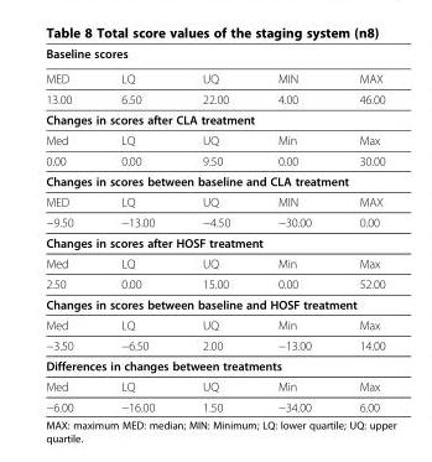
<table><thead><tr><td colspan="5">Baseline scores</td></tr><tr><td>MED</td><td>LQ</td><td>UQ</td><td>MIN</td><td>MAX</td></tr></thead><tbody><tr><td>13.00</td><td>6.50</td><td>22.00</td><td>4.00</td><td>46.00</td></tr><tr><td colspan="5">Changes in scores after CLA treatment</td></tr><tr><td>Med</td><td>LQ</td><td>UQ</td><td>Min</td><td>Max</td></tr><tr><td>0.00</td><td>0.00</td><td>9.50</td><td>0.00</td><td>30.00</td></tr><tr><td colspan="5">Changes in scores between baseline and CLA treatment</td></tr><tr><td>MED</td><td>LQ</td><td>UQ</td><td>MIN</td><td>MAX</td></tr><tr><td>−9.50</td><td>−13.00</td><td>−4.50</td><td>−30.00</td><td>0.00</td></tr><tr><td colspan="5">Changes in scores after HOSF treatment</td></tr><tr><td>Med</td><td>LQ</td><td>UQ</td><td>Min</td><td>Max</td></tr><tr><td>2.50</td><td>0.00</td><td>15.00</td><td>0.00</td><td>52.00</td></tr><tr><td colspan="5">Changes in scores between baseline and HOSF treatment</td></tr><tr><td>Med</td><td>LQ</td><td>UQ</td><td>Min</td><td>Max</td></tr><tr><td>−3.50</td><td>−6.50</td><td>2.00</td><td>−13.00</td><td>14.00</td></tr><tr><td colspan="5">Differences in changes between treatments</td></tr><tr><td>Med</td><td>LQ</td><td>UQ</td><td>Min</td><td>Max</td></tr><tr><td>−6.00</td><td>−16.00</td><td>1.50</td><td>−34.00</td><td>6.00</td></tr></tbody></table>